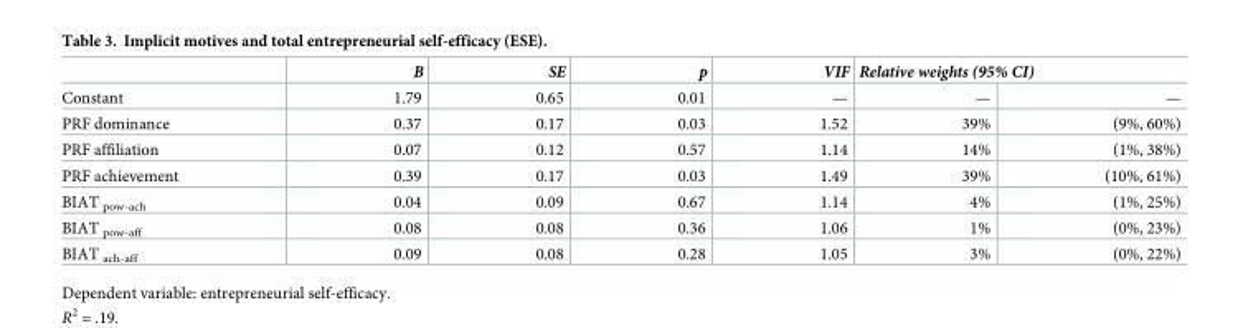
<table><thead><tr><td rowspan="2">Constant</td><td rowspan="2">B 1.79</td><td rowspan="2">SE 0.65</td><td rowspan="2">p 0.01</td><td rowspan="2">VIF —</td><td colspan="2">Relative weights (95% CI)</td></tr><tr><td>—</td><td>—</td></tr></thead><tbody><tr><td>PRF dominance</td><td>0.37</td><td>0.17</td><td>0.03</td><td>1.52</td><td>39%</td><td>(9%, 60%)</td></tr><tr><td>PRF affiliation</td><td>0.07</td><td>0.12</td><td>0.57</td><td>1.14</td><td>14%</td><td>(1%, 38%)</td></tr><tr><td>PRF achievement</td><td>0.39</td><td>0.17</td><td>0.03</td><td>1.49</td><td>39%</td><td>(10%, 61%)</td></tr><tr><td>BIAT <sub>pow-ach</sub></td><td>0.04</td><td>0.09</td><td>0.67</td><td>1.14</td><td>4%</td><td>(1%, 25%)</td></tr><tr><td>BIAT <sub>pow-aff</sub></td><td>0.08</td><td>0.08</td><td>0.36</td><td>1.06</td><td>1%</td><td>(0%, 23%)</td></tr><tr><td>BIAT <sub>ach-aff</sub></td><td>0.09</td><td>0.08</td><td>0.28</td><td>1.05</td><td>3%</td><td>(0%, 22%)</td></tr></tbody></table>